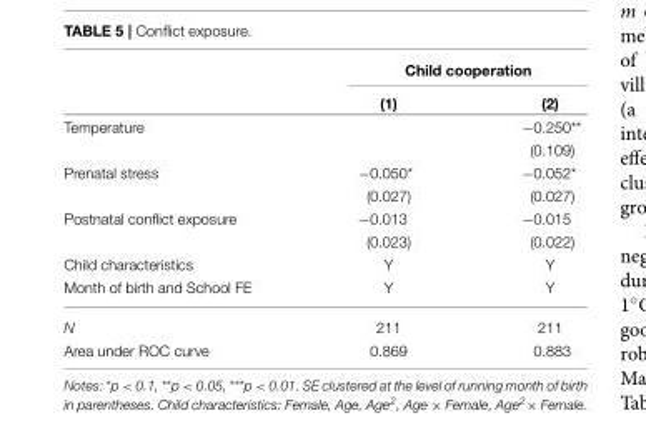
<table><thead><tr><td rowspan="2"></td><td colspan="2">Child cooperation</td></tr><tr><td>(1)</td><td>(2)</td></tr></thead><tbody><tr><td rowspan="2">Temperature</td><td></td><td>−0.250**</td></tr><tr><td></td><td>(0.109)</td></tr><tr><td rowspan="2">Prenatal stress</td><td>−0.050*</td><td>−0.052*</td></tr><tr><td>(0.027)</td><td>(0.027)</td></tr><tr><td rowspan="2">Postnatal conflict exposure</td><td>−0.013</td><td>−0.015</td></tr><tr><td>(0.023)</td><td>(0.022)</td></tr><tr><td>Child characteristics</td><td>Y</td><td>Y</td></tr><tr><td>Month of birth and School FE</td><td>Y</td><td>Y</td></tr><tr><td>N</td><td>211</td><td>211</td></tr><tr><td>Area under ROC curve</td><td>0.869</td><td>0.883</td></tr></tbody></table>